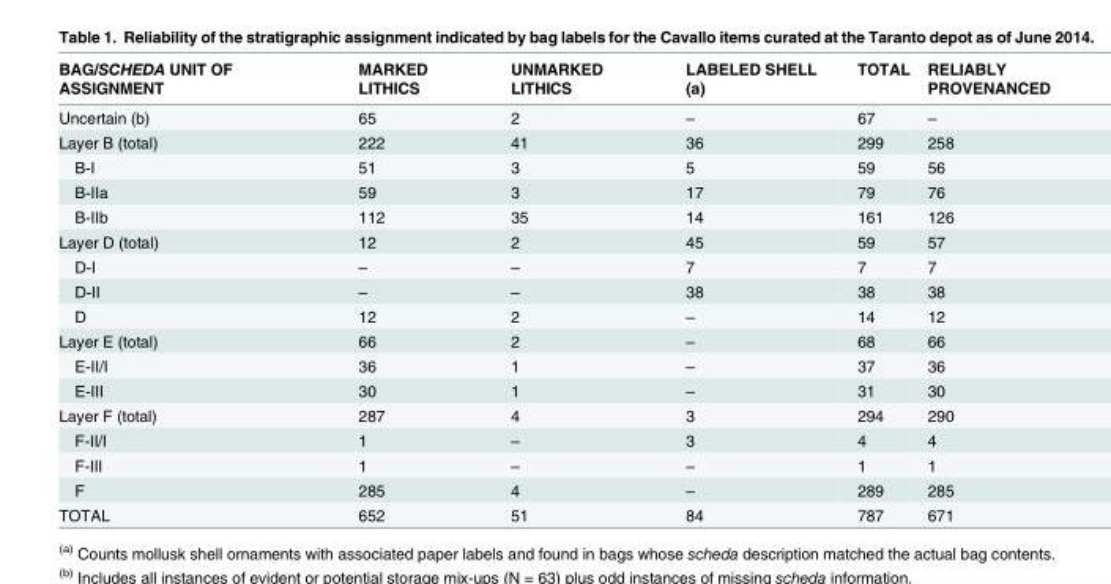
<table><thead><tr><td>BAG/SCHEDA UNIT OF ASSIGNMENT</td><td>MARKED LITHICS</td><td>UNMARKED LITHICS</td><td>LABELED SHELL (a)</td><td>TOTAL</td><td>RELIABLY PROVENANCED</td></tr></thead><tbody><tr><td>Uncertain (b)</td><td>65</td><td>2</td><td>–</td><td>67</td><td>–</td></tr><tr><td>Layer B (total)</td><td>222</td><td>41</td><td>36</td><td>299</td><td>258</td></tr><tr><td>B-I</td><td>51</td><td>3</td><td>5</td><td>59</td><td>56</td></tr><tr><td>B-IIa</td><td>59</td><td>3</td><td>17</td><td>79</td><td>76</td></tr><tr><td>B-IIb</td><td>112</td><td>35</td><td>14</td><td>161</td><td>126</td></tr><tr><td>Layer D (total)</td><td>12</td><td>2</td><td>45</td><td>59</td><td>57</td></tr><tr><td>D-I</td><td>–</td><td>–</td><td>7</td><td>7</td><td>7</td></tr><tr><td>D-II</td><td>–</td><td>–</td><td>38</td><td>38</td><td>38</td></tr><tr><td>D</td><td>12</td><td>2</td><td>–</td><td>14</td><td>12</td></tr><tr><td>Layer E (total)</td><td>66</td><td>2</td><td>–</td><td>68</td><td>66</td></tr><tr><td>E-II/I</td><td>36</td><td>1</td><td>–</td><td>37</td><td>36</td></tr><tr><td>E-III</td><td>30</td><td>1</td><td>–</td><td>31</td><td>30</td></tr><tr><td>Layer F (total)</td><td>287</td><td>4</td><td>3</td><td>294</td><td>290</td></tr><tr><td>F-II/I</td><td>1</td><td>–</td><td>3</td><td>4</td><td>4</td></tr><tr><td>F-III</td><td>1</td><td>–</td><td>–</td><td>1</td><td>1</td></tr><tr><td>F</td><td>285</td><td>4</td><td>–</td><td>289</td><td>285</td></tr><tr><td>TOTAL</td><td>652</td><td>51</td><td>84</td><td>787</td><td>671</td></tr></tbody></table>